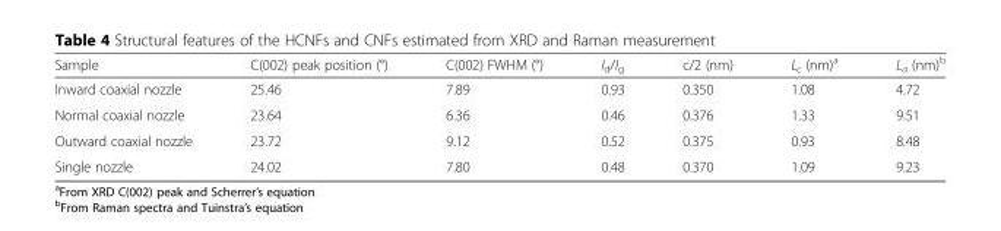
<table><thead><tr><td>Sample</td><td>C(002) peak position (°)</td><td>C(002) FWHM (°)</td><td>I<sub>d</sub>/I<sub>g</sub></td><td>c/2 (nm)</td><td>L<sub>c</sub> (nm)<sup>a</sup></td><td>L<sub>a</sub> (nm)<sup>b</sup></td></tr></thead><tbody><tr><td>Inward coaxial nozzle</td><td>25.46</td><td>7.89</td><td>0.93</td><td>0.350</td><td>1.08</td><td>4.72</td></tr><tr><td>Normal coaxial nozzle</td><td>23.64</td><td>6.36</td><td>0.46</td><td>0.376</td><td>1.33</td><td>9.51</td></tr><tr><td>Outward coaxial nozzle</td><td>23.72</td><td>9.12</td><td>0.52</td><td>0.375</td><td>0.93</td><td>8.48</td></tr><tr><td>Single nozzle</td><td>24.02</td><td>7.80</td><td>0.48</td><td>0.370</td><td>1.09</td><td>9.23</td></tr></tbody></table>